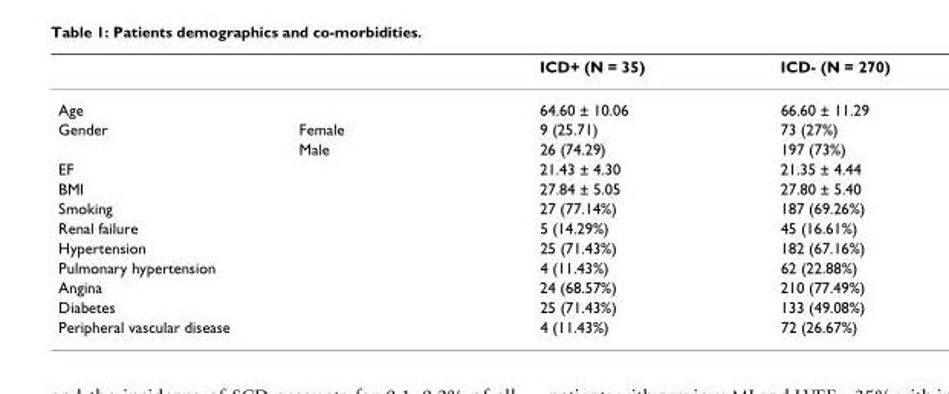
<table><thead><tr><td></td><td></td><td>ICD+ (N = 35)</td><td>ICD- (N = 270)</td></tr></thead><tbody><tr><td>Age</td><td></td><td>64.60 ± 10.06</td><td>66.60 ± 11.29</td></tr><tr><td rowspan="2">Gender</td><td>Female</td><td>9 (25.71)</td><td>73 (27%)</td></tr><tr><td>Male</td><td>26 (74.29)</td><td>197 (73%)</td></tr><tr><td colspan="2">EF</td><td>21.43 ± 4.30</td><td>21.35 ± 4.44</td></tr><tr><td colspan="2">BMI</td><td>27.84 ± 5.05</td><td>27.80 ± 5.40</td></tr><tr><td colspan="2">Smoking</td><td>27 (77.14%)</td><td>187 (69.26%)</td></tr><tr><td colspan="2">Renal failure</td><td>5 (14.29%)</td><td>45 (16.61%)</td></tr><tr><td colspan="2">Hypertension</td><td>25 (71.43%)</td><td>182 (67.16%)</td></tr><tr><td colspan="2">Pulmonary hypertension</td><td>4 (11.43%)</td><td>62 (22.88%)</td></tr><tr><td colspan="2">Angina</td><td>24 (68.57%)</td><td>210 (77.49%)</td></tr><tr><td colspan="2">Diabetes</td><td>25 (71.43%)</td><td>133 (49.08%)</td></tr><tr><td colspan="2">Peripheral vascular disease</td><td>4 (11.43%)</td><td>72 (26.67%)</td></tr></tbody></table>